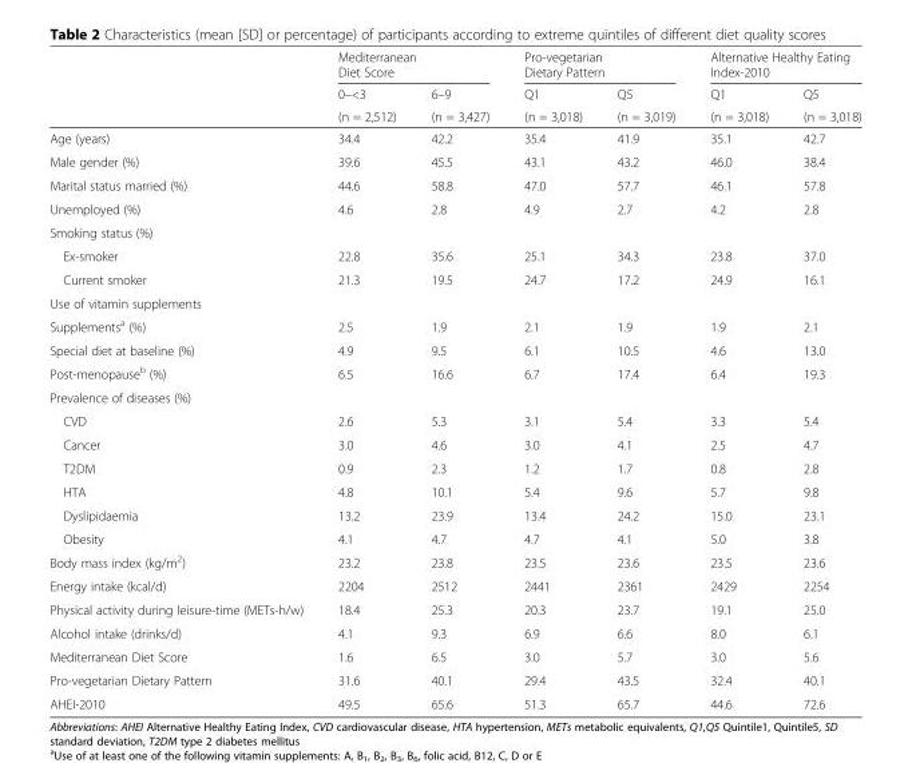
<table><thead><tr><td rowspan="4"></td><td rowspan="2" colspan="2">Mediterranean Diet Score</td><td rowspan="2" colspan="2">Pro-vegetarian Dietary Pattern</td><td rowspan="2" colspan="2">Alternative Healthy Eating Index-2010</td></tr><tr></tr><tr><td rowspan="2">0–&lt;3 (n = 2,512)</td><td rowspan="2">6–9 (n = 3,427)</td><td rowspan="2">Q1 (n = 3,018)</td><td rowspan="2">Q5 (n = 3,019)</td><td rowspan="2">Q1 (n = 3,018)</td><td rowspan="2">Q5 (n = 3,018)</td></tr><tr></tr></thead><tbody><tr><td>Age (years)</td><td>34.4</td><td>42.2</td><td>35.4</td><td>41.9</td><td>35.1</td><td>42.7</td></tr><tr><td>Male gender (%)</td><td>39.6</td><td>45.5</td><td>43.1</td><td>43.2</td><td>46.0</td><td>38.4</td></tr><tr><td>Marital status married (%)</td><td>44.6</td><td>58.8</td><td>47.0</td><td>57.7</td><td>46.1</td><td>57.8</td></tr><tr><td>Unemployed (%)</td><td>4.6</td><td>2.8</td><td>4.9</td><td>2.7</td><td>4.2</td><td>2.8</td></tr><tr><td colspan="7">Smoking status (%)</td></tr><tr><td>Ex-smoker</td><td>22.8</td><td>35.6</td><td>25.1</td><td>34.3</td><td>23.8</td><td>37.0</td></tr><tr><td>Current smoker</td><td>21.3</td><td>19.5</td><td>24.7</td><td>17.2</td><td>24.9</td><td>16.1</td></tr><tr><td colspan="7">Use of vitamin supplements</td></tr><tr><td>Supplements<sup>a</sup> (%)</td><td>2.5</td><td>1.9</td><td>2.1</td><td>1.9</td><td>1.9</td><td>2.1</td></tr><tr><td>Special diet at baseline (%)</td><td>4.9</td><td>9.5</td><td>6.1</td><td>10.5</td><td>4.6</td><td>13.0</td></tr><tr><td>Post-menopause<sup>b</sup> (%)</td><td>6.5</td><td>16.6</td><td>6.7</td><td>17.4</td><td>6.4</td><td>19.3</td></tr><tr><td colspan="7">Prevalence of diseases (%)</td></tr><tr><td>CVD</td><td>2.6</td><td>5.3</td><td>3.1</td><td>5.4</td><td>3.3</td><td>5.4</td></tr><tr><td>Cancer</td><td>3.0</td><td>4.6</td><td>3.0</td><td>4.1</td><td>2.5</td><td>4.7</td></tr><tr><td>T2DM</td><td>0.9</td><td>2.3</td><td>1.2</td><td>1.7</td><td>0.8</td><td>2.8</td></tr><tr><td>HTA</td><td>4.8</td><td>10.1</td><td>5.4</td><td>9.6</td><td>5.7</td><td>9.8</td></tr><tr><td>Dyslipidaemia</td><td>13.2</td><td>23.9</td><td>13.4</td><td>24.2</td><td>15.0</td><td>23.1</td></tr><tr><td>Obesity</td><td>4.1</td><td>4.7</td><td>4.7</td><td>4.1</td><td>5.0</td><td>3.8</td></tr><tr><td>Body mass index (kg/m<sup>2</sup>)</td><td>23.2</td><td>23.8</td><td>23.5</td><td>23.6</td><td>23.5</td><td>23.6</td></tr><tr><td>Energy intake (kcal/d)</td><td>2204</td><td>2512</td><td>2441</td><td>2361</td><td>2429</td><td>2254</td></tr><tr><td>Physical activity during leisure-time (METs-h/w)</td><td>18.4</td><td>25.3</td><td>20.3</td><td>23.7</td><td>19.1</td><td>25.0</td></tr><tr><td>Alcohol intake (drinks/d)</td><td>4.1</td><td>9.3</td><td>6.9</td><td>6.6</td><td>8.0</td><td>6.1</td></tr><tr><td>Mediterranean Diet Score</td><td>1.6</td><td>6.5</td><td>3.0</td><td>5.7</td><td>3.0</td><td>5.6</td></tr><tr><td>Pro-vegetarian Dietary Pattern</td><td>31.6</td><td>40.1</td><td>29.4</td><td>43.5</td><td>32.4</td><td>40.1</td></tr><tr><td>AHEI-2010</td><td>49.5</td><td>65.6</td><td>51.3</td><td>65.7</td><td>44.6</td><td>72.6</td></tr></tbody></table>